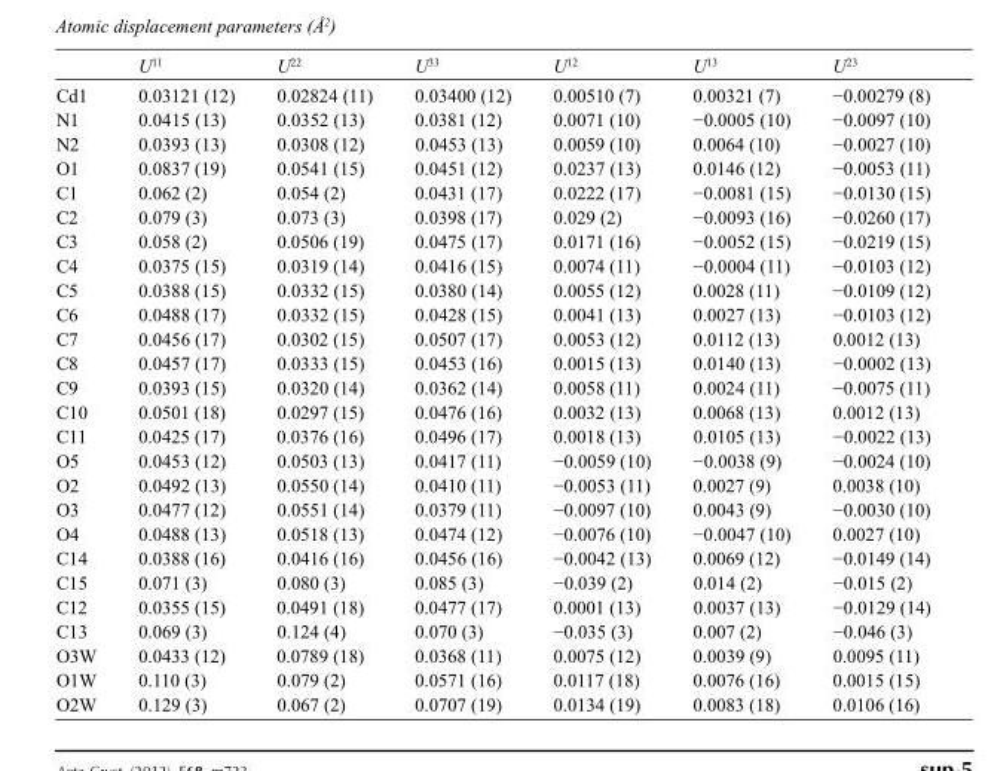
<table><thead><tr><td></td><td>U<sup>11</sup></td><td>U<sup>22</sup></td><td>U<sup>33</sup></td><td>U<sup>12</sup></td><td>U<sup>13</sup></td><td>U<sup>23</sup></td></tr></thead><tbody><tr><td>Cd1</td><td>0.03121 (12)</td><td>0.02824 (11)</td><td>0.03400 (12)</td><td>0.00510 (7)</td><td>0.00321 (7)</td><td>−0.00279 (8)</td></tr><tr><td>N1</td><td>0.0415 (13)</td><td>0.0352 (13)</td><td>0.0381 (12)</td><td>0.0071 (10)</td><td>−0.0005 (10)</td><td>−0.0097 (10)</td></tr><tr><td>N2</td><td>0.0393 (13)</td><td>0.0308 (12)</td><td>0.0453 (13)</td><td>0.0059 (10)</td><td>0.0064 (10)</td><td>−0.0027 (10)</td></tr><tr><td>O1</td><td>0.0837 (19)</td><td>0.0541 (15)</td><td>0.0451 (12)</td><td>0.0237 (13)</td><td>0.0146 (12)</td><td>−0.0053 (11)</td></tr><tr><td>C1</td><td>0.062 (2)</td><td>0.054 (2)</td><td>0.0431 (17)</td><td>0.0222 (17)</td><td>−0.0081 (15)</td><td>−0.0130 (15)</td></tr><tr><td>C2</td><td>0.079 (3)</td><td>0.073 (3)</td><td>0.0398 (17)</td><td>0.029 (2)</td><td>−0.0093 (16)</td><td>−0.0260 (17)</td></tr><tr><td>C3</td><td>0.058 (2)</td><td>0.0506 (19)</td><td>0.0475 (17)</td><td>0.0171 (16)</td><td>−0.0052 (15)</td><td>−0.0219 (15)</td></tr><tr><td>C4</td><td>0.0375 (15)</td><td>0.0319 (14)</td><td>0.0416 (15)</td><td>0.0074 (11)</td><td>−0.0004 (11)</td><td>−0.0103 (12)</td></tr><tr><td>C5</td><td>0.0388 (15)</td><td>0.0332 (15)</td><td>0.0380 (14)</td><td>0.0055 (12)</td><td>0.0028 (11)</td><td>−0.0109 (12)</td></tr><tr><td>C6</td><td>0.0488 (17)</td><td>0.0332 (15)</td><td>0.0428 (15)</td><td>0.0041 (13)</td><td>0.0027 (13)</td><td>−0.0103 (12)</td></tr><tr><td>C7</td><td>0.0456 (17)</td><td>0.0302 (15)</td><td>0.0507 (17)</td><td>0.0053 (12)</td><td>0.0112 (13)</td><td>0.0012 (13)</td></tr><tr><td>C8</td><td>0.0457 (17)</td><td>0.0333 (15)</td><td>0.0453 (16)</td><td>0.0015 (13)</td><td>0.0140 (13)</td><td>−0.0002 (13)</td></tr><tr><td>C9</td><td>0.0393 (15)</td><td>0.0320 (14)</td><td>0.0362 (14)</td><td>0.0058 (11)</td><td>0.0024 (11)</td><td>−0.0075 (11)</td></tr><tr><td>C10</td><td>0.0501 (18)</td><td>0.0297 (15)</td><td>0.0476 (16)</td><td>0.0032 (13)</td><td>0.0068 (13)</td><td>0.0012 (13)</td></tr><tr><td>C11</td><td>0.0425 (17)</td><td>0.0376 (16)</td><td>0.0496 (17)</td><td>0.0018 (13)</td><td>0.0105 (13)</td><td>−0.0022 (13)</td></tr><tr><td>O5</td><td>0.0453 (12)</td><td>0.0503 (13)</td><td>0.0417 (11)</td><td>−0.0059 (10)</td><td>−0.0038 (9)</td><td>−0.0024 (10)</td></tr><tr><td>O2</td><td>0.0492 (13)</td><td>0.0550 (14)</td><td>0.0410 (11)</td><td>−0.0053 (11)</td><td>0.0027 (9)</td><td>0.0038 (10)</td></tr><tr><td>O3</td><td>0.0477 (12)</td><td>0.0551 (14)</td><td>0.0379 (11)</td><td>−0.0097 (10)</td><td>0.0043 (9)</td><td>−0.0030 (10)</td></tr><tr><td>O4</td><td>0.0488 (13)</td><td>0.0518 (13)</td><td>0.0474 (12)</td><td>−0.0076 (10)</td><td>−0.0047 (10)</td><td>0.0027 (10)</td></tr><tr><td>C14</td><td>0.0388 (16)</td><td>0.0416 (16)</td><td>0.0456 (16)</td><td>−0.0042 (13)</td><td>0.0069 (12)</td><td>−0.0149 (14)</td></tr><tr><td>C15</td><td>0.071 (3)</td><td>0.080 (3)</td><td>0.085 (3)</td><td>−0.039 (2)</td><td>0.014 (2)</td><td>−0.015 (2)</td></tr><tr><td>C12</td><td>0.0355 (15)</td><td>0.0491 (18)</td><td>0.0477 (17)</td><td>0.0001 (13)</td><td>0.0037 (13)</td><td>−0.0129 (14)</td></tr><tr><td>C13</td><td>0.069 (3)</td><td>0.124 (4)</td><td>0.070 (3)</td><td>−0.035 (3)</td><td>0.007 (2)</td><td>−0.046 (3)</td></tr><tr><td>O3W</td><td>0.0433 (12)</td><td>0.0789 (18)</td><td>0.0368 (11)</td><td>0.0075 (12)</td><td>0.0039 (9)</td><td>0.0095 (11)</td></tr><tr><td>O1W</td><td>0.110 (3)</td><td>0.079 (2)</td><td>0.0571 (16)</td><td>0.0117 (18)</td><td>0.0076 (16)</td><td>0.0015 (15)</td></tr><tr><td>O2W</td><td>0.129 (3)</td><td>0.067 (2)</td><td>0.0707 (19)</td><td>0.0134 (19)</td><td>0.0083 (18)</td><td>0.0106 (16)</td></tr></tbody></table>